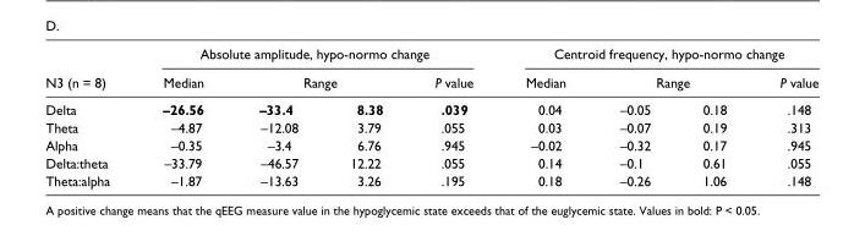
<table><thead><tr><td rowspan="3">N3 (n = 8) Delta</td><td colspan="4">Absolute amplitude, hypo-normo change</td><td colspan="4">Centroid frequency, hypo-normo change</td></tr><tr><td rowspan="2">Median –26.56</td><td colspan="2">Range</td><td rowspan="2">P value .039</td><td rowspan="2">Median 0.04</td><td colspan="2">Range</td><td rowspan="2">P value .148</td></tr><tr><td>–33.4</td><td>8.38</td><td>–0.05</td><td>0.18</td></tr></thead><tbody><tr><td>Theta</td><td>–4.87</td><td>–12.08</td><td>3.79</td><td>.055</td><td>0.03</td><td>–0.07</td><td>0.19</td><td>.313</td></tr><tr><td>Alpha</td><td>–0.35</td><td>–3.4</td><td>6.76</td><td>.945</td><td>–0.02</td><td>–0.32</td><td>0.17</td><td>.945</td></tr><tr><td>Delta:theta</td><td>–33.79</td><td>–46.57</td><td>12.22</td><td>.055</td><td>0.14</td><td>–0.1</td><td>0.61</td><td>.055</td></tr><tr><td>Theta:alpha</td><td>–1.87</td><td>–13.63</td><td>3.26</td><td>.195</td><td>0.18</td><td>–0.26</td><td>1.06</td><td>.148</td></tr></tbody></table>